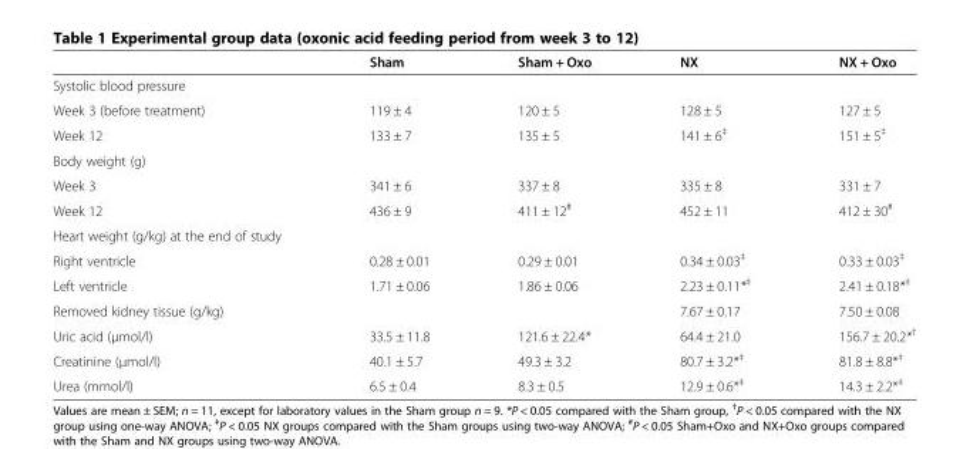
<table><thead><tr><td></td><td>Sham</td><td>Sham + Oxo</td><td>NX</td><td>NX + Oxo</td></tr></thead><tbody><tr><td colspan="5">Systolic blood pressure</td></tr><tr><td>Week 3 (before treatment)</td><td>119 ± 4</td><td>120 ± 5</td><td>128 ± 5</td><td>127 ± 5</td></tr><tr><td>Week 12</td><td>133 ± 7</td><td>135 ± 5</td><td>141 ± 6<sup>‡</sup></td><td>151 ± 5<sup>‡</sup></td></tr><tr><td colspan="5">Body weight (g)</td></tr><tr><td>Week 3</td><td>341 ± 6</td><td>337 ± 8</td><td>335 ± 8</td><td>331 ± 7</td></tr><tr><td>Week 12</td><td>436 ± 9</td><td>411 ± 12<sup>#</sup></td><td>452 ± 11</td><td>412 ± 30<sup>#</sup></td></tr><tr><td colspan="5">Heart weight (g/kg) at the end of study</td></tr><tr><td>Right ventricle</td><td>0.28 ± 0.01</td><td>0.29 ± 0.01</td><td>0.34 ± 0.03<sup>‡</sup></td><td>0.33 ± 0.03<sup>‡</sup></td></tr><tr><td>Left ventricle</td><td>1.71 ± 0.06</td><td>1.86 ± 0.06</td><td>2.23 ± 0.11*<sup>‡</sup></td><td>2.41 ± 0.18*<sup>‡</sup></td></tr><tr><td>Removed kidney tissue (g/kg)</td><td></td><td></td><td>7.67 ± 0.17</td><td>7.50 ± 0.08</td></tr><tr><td>Uric acid (μmol/l)</td><td>33.5 ± 11.8</td><td>121.6 ± 22.4*</td><td>64.4 ± 21.0</td><td>156.7 ± 20.2*<sup>†</sup></td></tr><tr><td>Creatinine (μmol/l)</td><td>40.1 ± 5.7</td><td>49.3 ± 3.2</td><td>80.7 ± 3.2*<sup>‡</sup></td><td>81.8 ± 8.8*<sup>‡</sup></td></tr><tr><td>Urea (mmol/l)</td><td>6.5 ± 0.4</td><td>8.3 ± 0.5</td><td>12.9 ± 0.6*<sup>‡</sup></td><td>14.3 ± 2.2*<sup>‡</sup></td></tr></tbody></table>